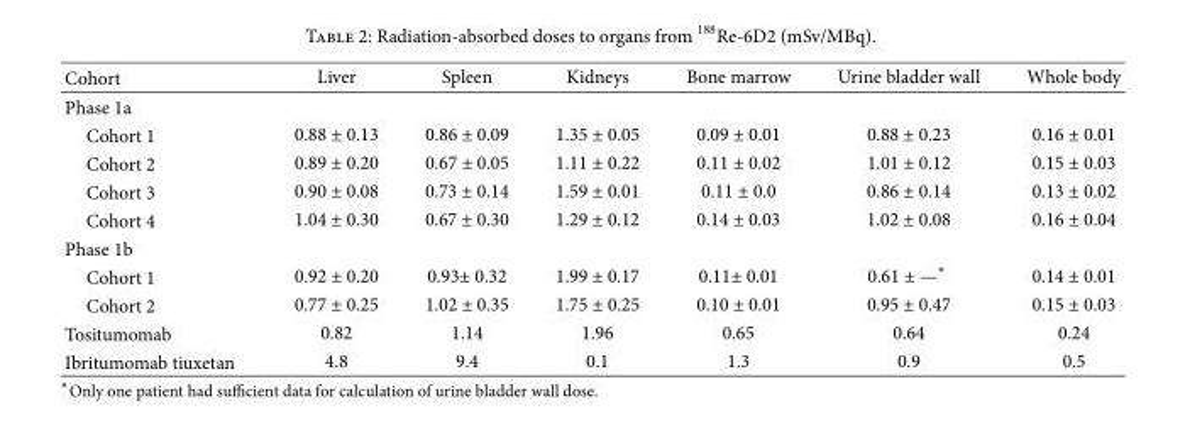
<table><thead><tr><td>Cohort</td><td>Liver</td><td>Spleen</td><td>Kidneys</td><td>Bone marrow</td><td>Urine bladder wall</td><td>Whole body</td></tr></thead><tbody><tr><td colspan="7">Phase 1a</td></tr><tr><td>Cohort 1</td><td>0.88 ± 0.13</td><td>0.86 ± 0.09</td><td>1.35 ± 0.05</td><td>0.09 ± 0.01</td><td>0.88 ± 0.23</td><td>0.16 ± 0.01</td></tr><tr><td>Cohort 2</td><td>0.89 ± 0.20</td><td>0.67 ± 0.05</td><td>1.11 ± 0.22</td><td>0.11 ± 0.02</td><td>1.01 ± 0.12</td><td>0.15 ± 0.03</td></tr><tr><td>Cohort 3</td><td>0.90 ± 0.08</td><td>0.73 ± 0.14</td><td>1.59 ± 0.01</td><td>0.11 ± 0.0</td><td>0.86 ± 0.14</td><td>0.13 ± 0.02</td></tr><tr><td>Cohort 4</td><td>1.04 ± 0.30</td><td>0.67 ± 0.30</td><td>1.29 ± 0.12</td><td>0.14 ± 0.03</td><td>1.02 ± 0.08</td><td>0.16 ± 0.04</td></tr><tr><td colspan="7">Phase 1b</td></tr><tr><td>Cohort 1</td><td>0.92 ± 0.20</td><td>0.93± 0.32</td><td>1.99 ± 0.17</td><td>0.11± 0.01</td><td>0.61 ± —∗</td><td>0.14 ± 0.01</td></tr><tr><td>Cohort 2</td><td>0.77 ± 0.25</td><td>1.02 ± 0.35</td><td>1.75 ± 0.25</td><td>0.10 ± 0.01</td><td>0.95 ± 0.47</td><td>0.15 ± 0.03</td></tr><tr><td>Tositumomab</td><td>0.82</td><td>1.14</td><td>1.96</td><td>0.65</td><td>0.64</td><td>0.24</td></tr><tr><td>Ibritumomab tiuxetan</td><td>4.8</td><td>9.4</td><td>0.1</td><td>1.3</td><td>0.9</td><td>0.5</td></tr></tbody></table>